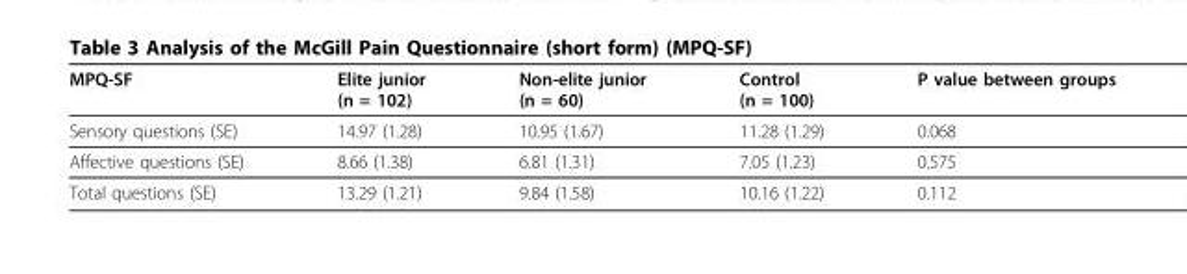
<table><thead><tr><td>MPQ-SF</td><td>Elite junior (n = 102)</td><td>Non-elite junior (n = 60)</td><td>Control (n = 100)</td><td>P value between groups</td></tr></thead><tbody><tr><td>Sensory questions (SE)</td><td>14.97 (1.28)</td><td>10.95 (1.67)</td><td>11.28 (1.29)</td><td>0.068</td></tr><tr><td>Affective questions (SE)</td><td>8.66 (1.38)</td><td>6.81 (1.31)</td><td>7.05 (1.23)</td><td>0.575</td></tr><tr><td>Total questions (SE)</td><td>13.29 (1.21)</td><td>9.84 (1.58)</td><td>10.16 (1.22)</td><td>0.112</td></tr></tbody></table>